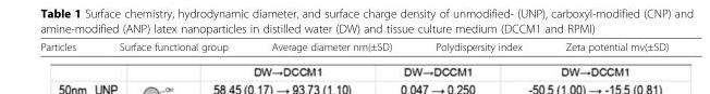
<table><thead><tr><td>Particles</td><td>Surface functional group</td><td>Average diameter nm(±SD)</td><td>Polydispersity index</td><td>Zeta potential mv(±SD)</td></tr></thead><tbody></tbody></table>